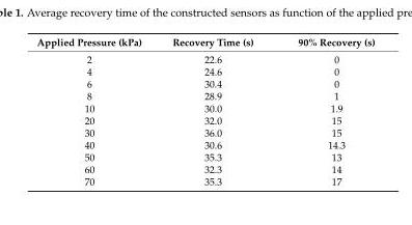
<table><thead><tr><td>Applied Pressure (kPa)</td><td>Recovery Time (s)</td><td>90% Recovery (s)</td></tr></thead><tbody><tr><td>2</td><td>22.6</td><td>0</td></tr><tr><td>4</td><td>24.6</td><td>0</td></tr><tr><td>6</td><td>30.4</td><td>0</td></tr><tr><td>8</td><td>28.9</td><td>1</td></tr><tr><td>10</td><td>30.0</td><td>1.9</td></tr><tr><td>20</td><td>32.0</td><td>15</td></tr><tr><td>30</td><td>36.0</td><td>15</td></tr><tr><td>40</td><td>30.6</td><td>14.3</td></tr><tr><td>50</td><td>35.3</td><td>13</td></tr><tr><td>60</td><td>32.3</td><td>14</td></tr><tr><td>70</td><td>35.3</td><td>17</td></tr></tbody></table>